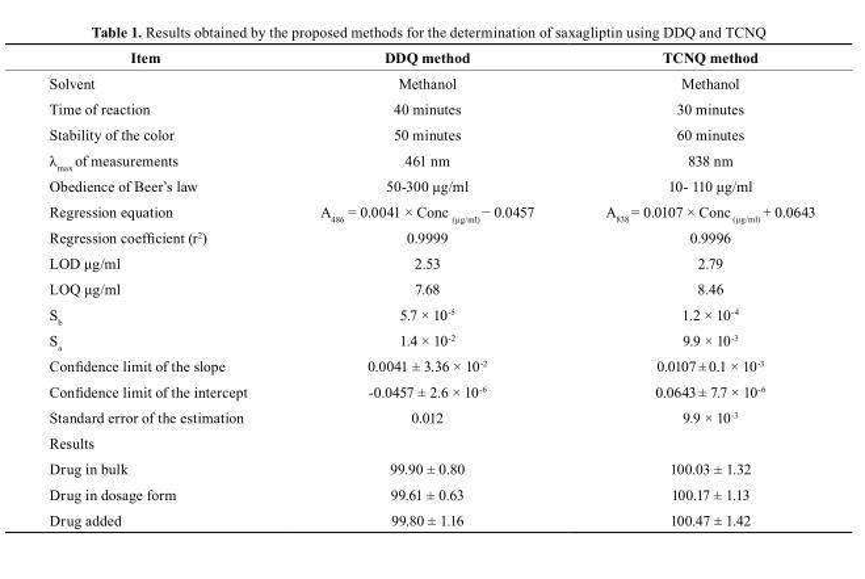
<table><thead><tr><td>Item</td><td>DDQ method</td><td>tcNQ method</td></tr></thead><tbody><tr><td>Solvent</td><td>Methanol</td><td>Methanol</td></tr><tr><td>Time of reaction</td><td>40 minutes</td><td>30 minutes</td></tr><tr><td>Stability of the color</td><td>50 minutes</td><td>60 minutes</td></tr><tr><td>λ<sub>max</sub> of measurements</td><td>461 nm</td><td>838 nm</td></tr><tr><td>Obedience of Beer’s law</td><td>50-300 μg/ml</td><td>10- 110 μg/ml</td></tr><tr><td>Regression equation</td><td>A<sub>486</sub> = 0.0041 × Conc <sub>(μg/ml)</sub> − 0.0457</td><td>A<sub>838</sub> = 0.0107 × Conc <sub>(μg/ml)</sub> + 0.0643</td></tr><tr><td>Regression coefficient (r<sup>2</sup>)</td><td>0.9999</td><td>0.9996</td></tr><tr><td>LOD μg/ml</td><td>2.53</td><td>2.79</td></tr><tr><td>LOQ μg/ml</td><td>7.68</td><td>8.46</td></tr><tr><td>S<sub>b</sub></td><td>5.7 × 10<sup>-5</sup></td><td>1.2 × 10<sup>-4</sup></td></tr><tr><td>S<sub>a</sub></td><td>1.4 × 10<sup>-2</sup></td><td>9.9 × 10<sup>-3</sup></td></tr><tr><td>Confidence limit of the slope</td><td>0.0041 ± 3.36 × 10<sup>-2</sup></td><td>0.0107 ± 0.1 × 10<sup>-3</sup></td></tr><tr><td>Confidence limit of the intercept</td><td>-0.0457 ± 2.6 × 10<sup>-6</sup></td><td>0.0643 ± 7.7 × 10<sup>-6</sup></td></tr><tr><td>Standard error of the estimation</td><td>0.012</td><td>9.9 × 10<sup>-3</sup></td></tr><tr><td colspan="3">Results</td></tr><tr><td>Drug in bulk</td><td>99.90 ± 0.80</td><td>100.03 ± 1.32</td></tr><tr><td>Drug in dosage form</td><td>99.61 ± 0.63</td><td>100.17 ± 1.13</td></tr><tr><td>Drug added</td><td>99.80 ± 1.16</td><td>100.47 ± 1.42</td></tr></tbody></table>